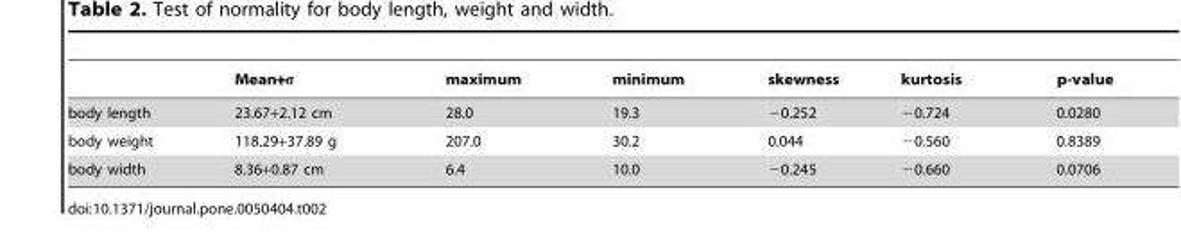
<table><thead><tr><td></td><td>Mean+σ</td><td>maximum</td><td>minimum</td><td>skewness</td><td>kurtosis</td><td>p-value</td></tr></thead><tbody><tr><td>body length</td><td>23.67+2.12 cm</td><td>28.0</td><td>19.3</td><td>−0.252</td><td>−0.724</td><td>0.0280</td></tr><tr><td>body weight</td><td>118.29+37.89 g</td><td>207.0</td><td>30.2</td><td>0.044</td><td>−0.560</td><td>0.8389</td></tr><tr><td>body width</td><td>8.36+0.87 cm</td><td>6.4</td><td>10.0</td><td>−0.245</td><td>−0.660</td><td>0.0706</td></tr></tbody></table>